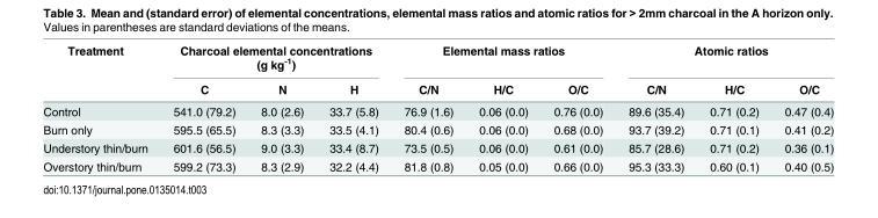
<table><thead><tr><td rowspan="2">Treatment</td><td colspan="3">Charcoal elemental concentrations (g kg<sup>-1</sup>)</td><td colspan="3">Elemental mass ratios</td><td colspan="3">Atomic ratios</td></tr><tr><td>C</td><td>N</td><td>H</td><td>C/N</td><td>H/C</td><td>O/C</td><td>C/N</td><td>H/C</td><td>O/C</td></tr></thead><tbody><tr><td>Control</td><td>541.0 (79.2)</td><td>8.0 (2.6)</td><td>33.7 (5.8)</td><td>76.9 (1.6)</td><td>0.06 (0.0)</td><td>0.76 (0.0)</td><td>89.6 (35.4)</td><td>0.71 (0.2)</td><td>0.47 (0.4)</td></tr><tr><td>Burn only</td><td>595.5 (65.5)</td><td>8.3 (3.3)</td><td>33.5 (4.1)</td><td>80.4 (0.6)</td><td>0.06 (0.0)</td><td>0.68 (0.0)</td><td>93.7 (39.2)</td><td>0.71 (0.1)</td><td>0.41 (0.2)</td></tr><tr><td>Understory thin/burn</td><td>601.6 (56.5)</td><td>9.0 (3.3)</td><td>33.4 (8.7)</td><td>73.5 (0.5)</td><td>0.06 (0.0)</td><td>0.61 (0.0)</td><td>85.7 (28.6)</td><td>0.71 (0.2)</td><td>0.36 (0.1)</td></tr><tr><td>Overstory thin/burn</td><td>599.2 (73.3)</td><td>8.3 (2.9)</td><td>32.2 (4.4)</td><td>81.8 (0.8)</td><td>0.05 (0.0)</td><td>0.66 (0.0)</td><td>95.3 (33.3)</td><td>0.60 (0.1)</td><td>0.40 (0.5)</td></tr></tbody></table>